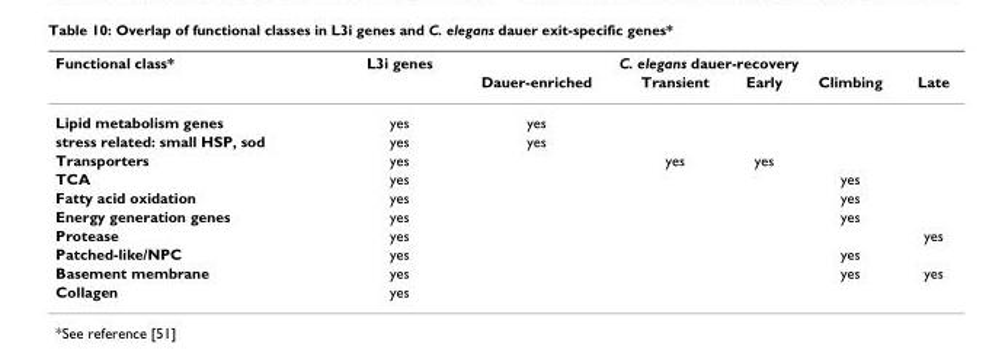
<table><thead><tr><td rowspan="2">Functional class*</td><td rowspan="2">L3i genes</td><td colspan="5">C. elegans dauer-recovery</td></tr><tr><td>Dauer-enriched</td><td>Transient</td><td>Early</td><td>Climbing</td><td>Late</td></tr></thead><tbody><tr><td>Lipid metabolism genes</td><td>yes</td><td>yes</td><td></td><td></td><td></td><td></td></tr><tr><td>stress related: small HSP, sod</td><td>yes</td><td>yes</td><td></td><td></td><td></td><td></td></tr><tr><td>Transporters</td><td>yes</td><td></td><td>yes</td><td>yes</td><td></td><td></td></tr><tr><td>TCA</td><td>yes</td><td></td><td></td><td></td><td>yes</td><td></td></tr><tr><td>Fatty acid oxidation</td><td>yes</td><td></td><td></td><td></td><td>yes</td><td></td></tr><tr><td>Energy generation genes</td><td>yes</td><td></td><td></td><td></td><td>yes</td><td></td></tr><tr><td>Protease</td><td>yes</td><td></td><td></td><td></td><td></td><td>yes</td></tr><tr><td>Patched-like/NPC</td><td>yes</td><td></td><td></td><td></td><td>yes</td><td></td></tr><tr><td>Basement membrane</td><td>yes</td><td></td><td></td><td></td><td>yes</td><td>yes</td></tr><tr><td>Collagen</td><td>yes</td><td></td><td></td><td></td><td></td><td></td></tr></tbody></table>